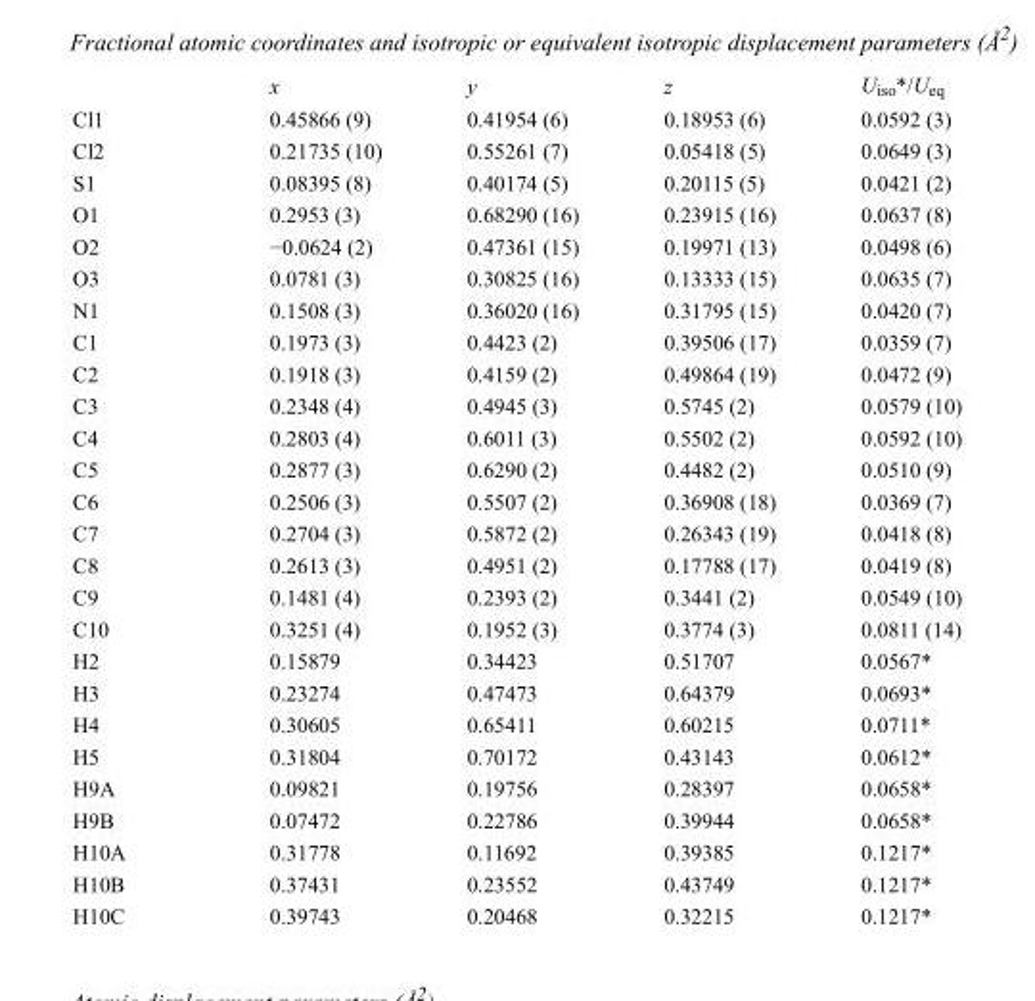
<table><thead><tr><td></td><td>x</td><td>y</td><td>z</td><td>U<sub>iso</sub>*/U<sub>eq</sub></td></tr></thead><tbody><tr><td>Cl1</td><td>0.45866 (9)</td><td>0.41954 (6)</td><td>0.18953 (6)</td><td>0.0592 (3)</td></tr><tr><td>Cl2</td><td>0.21735 (10)</td><td>0.55261 (7)</td><td>0.05418 (5)</td><td>0.0649 (3)</td></tr><tr><td>S1</td><td>0.08395 (8)</td><td>0.40174 (5)</td><td>0.20115 (5)</td><td>0.0421 (2)</td></tr><tr><td>O1</td><td>0.2953 (3)</td><td>0.68290 (16)</td><td>0.23915 (16)</td><td>0.0637 (8)</td></tr><tr><td>O2</td><td>−0.0624 (2)</td><td>0.47361 (15)</td><td>0.19971 (13)</td><td>0.0498 (6)</td></tr><tr><td>O3</td><td>0.0781 (3)</td><td>0.30825 (16)</td><td>0.13333 (15)</td><td>0.0635 (7)</td></tr><tr><td>N1</td><td>0.1508 (3)</td><td>0.36020 (16)</td><td>0.31795 (15)</td><td>0.0420 (7)</td></tr><tr><td>C1</td><td>0.1973 (3)</td><td>0.4423 (2)</td><td>0.39506 (17)</td><td>0.0359 (7)</td></tr><tr><td>C2</td><td>0.1918 (3)</td><td>0.4159 (2)</td><td>0.49864 (19)</td><td>0.0472 (9)</td></tr><tr><td>C3</td><td>0.2348 (4)</td><td>0.4945 (3)</td><td>0.5745 (2)</td><td>0.0579 (10)</td></tr><tr><td>C4</td><td>0.2803 (4)</td><td>0.6011 (3)</td><td>0.5502 (2)</td><td>0.0592 (10)</td></tr><tr><td>C5</td><td>0.2877 (3)</td><td>0.6290 (2)</td><td>0.4482 (2)</td><td>0.0510 (9)</td></tr><tr><td>C6</td><td>0.2506 (3)</td><td>0.5507 (2)</td><td>0.36908 (18)</td><td>0.0369 (7)</td></tr><tr><td>C7</td><td>0.2704 (3)</td><td>0.5872 (2)</td><td>0.26343 (19)</td><td>0.0418 (8)</td></tr><tr><td>C8</td><td>0.2613 (3)</td><td>0.4951 (2)</td><td>0.17788 (17)</td><td>0.0419 (8)</td></tr><tr><td>C9</td><td>0.1481 (4)</td><td>0.2393 (2)</td><td>0.3441 (2)</td><td>0.0549 (10)</td></tr><tr><td>C10</td><td>0.3251 (4)</td><td>0.1952 (3)</td><td>0.3774 (3)</td><td>0.0811 (14)</td></tr><tr><td>H2</td><td>0.15879</td><td>0.34423</td><td>0.51707</td><td>0.0567*</td></tr><tr><td>H3</td><td>0.23274</td><td>0.47473</td><td>0.64379</td><td>0.0693*</td></tr><tr><td>H4</td><td>0.30605</td><td>0.65411</td><td>0.60215</td><td>0.0711*</td></tr><tr><td>H5</td><td>0.31804</td><td>0.70172</td><td>0.43143</td><td>0.0612*</td></tr><tr><td>H9A</td><td>0.09821</td><td>0.19756</td><td>0.28397</td><td>0.0658*</td></tr><tr><td>H9B</td><td>0.07472</td><td>0.22786</td><td>0.39944</td><td>0.0658*</td></tr><tr><td>H10A</td><td>0.31778</td><td>0.11692</td><td>0.39385</td><td>0.1217*</td></tr><tr><td>H10B</td><td>0.37431</td><td>0.23552</td><td>0.43749</td><td>0.1217*</td></tr><tr><td>H10C</td><td>0.39743</td><td>0.20468</td><td>0.32215</td><td>0.1217*</td></tr></tbody></table>